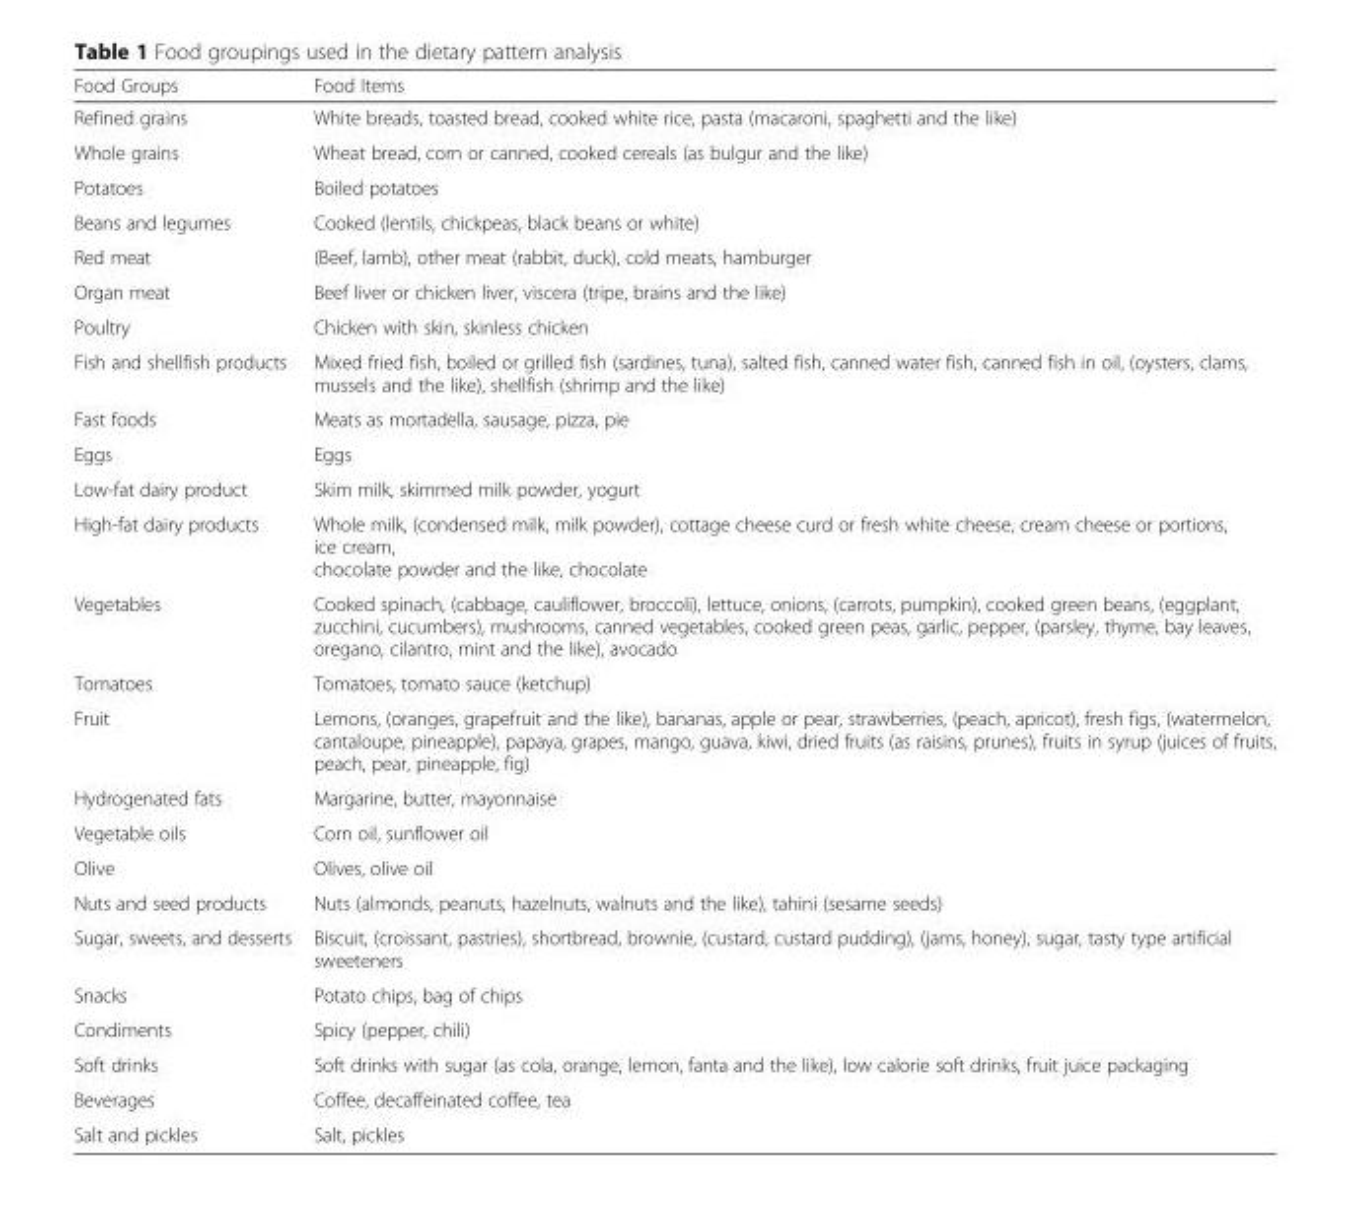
<table><thead><tr><td>Food Groups</td><td>Food Items</td></tr></thead><tbody><tr><td>Refined grains</td><td>White breads, toasted bread, cooked white rice, pasta (macaroni, spaghetti and the like)</td></tr><tr><td>Whole grains</td><td>Wheat bread, corn or canned, cooked cereals (as bulgur and the like)</td></tr><tr><td>Potatoes</td><td>Boiled potatoes</td></tr><tr><td>Beans and legumes</td><td>Cooked (lentils, chickpeas, black beans or white)</td></tr><tr><td>Red meat</td><td>(Beef, lamb), other meat (rabbit, duck), cold meats, hamburger</td></tr><tr><td>Organ meat</td><td>Beef liver or chicken liver, viscera (tripe, brains and the like)</td></tr><tr><td>Poultry</td><td>Chicken with skin, skinless chicken</td></tr><tr><td>Fish and shellfish products</td><td>Mixed fried fish, boiled or grilled fish (sardines, tuna), salted fish, canned water fish, canned fish in oil, (oysters, clams, mussels and the like), shellfish (shrimp and the like)</td></tr><tr><td>Fast foods</td><td>Meats as mortadella, sausage, pizza, pie</td></tr><tr><td>Eggs</td><td>Eggs</td></tr><tr><td>Low-fat dairy product</td><td>Skim milk, skimmed milk powder, yogurt</td></tr><tr><td>High-fat dairy products</td><td>Whole milk, (condensed milk, milk powder), cottage cheese curd or fresh white cheese, cream cheese or portions, ice cream, chocolate powder and the like, chocolate</td></tr><tr><td>Vegetables</td><td>Cooked spinach, (cabbage, cauliflower, broccoli), lettuce, onions, (carrots, pumpkin), cooked green beans, (eggplant, zucchini, cucumbers), mushrooms, canned vegetables, cooked green peas, garlic, pepper, (parsley, thyme, bay leaves, oregano, cilantro, mint and the like), avocado</td></tr><tr><td>Tomatoes</td><td>Tomatoes, tomato sauce (ketchup)</td></tr><tr><td>Fruit</td><td>Lemons, (oranges, grapefruit and the like), bananas, apple or pear, strawberries, (peach, apricot), fresh figs, (watermelon, cantaloupe, pineapple), papaya, grapes, mango, guava, kiwi, dried fruits (as raisins, prunes), fruits in syrup (juices of fruits, peach, pear, pineapple, fig)</td></tr><tr><td>Hydrogenated fats</td><td>Margarine, butter, mayonnaise</td></tr><tr><td>Vegetable oils</td><td>Corn oil, sunflower oil</td></tr><tr><td>Olive</td><td>Olives, olive oil</td></tr><tr><td>Nuts and seed products</td><td>Nuts (almonds, peanuts, hazelnuts, walnuts and the like), tahini (sesame seeds)</td></tr><tr><td>Sugar, sweets, and desserts</td><td>Biscuit, (croissant, pastries), shortbread, brownie, (custard, custard pudding), (jams, honey), sugar, tasty type artificial sweeteners</td></tr><tr><td>Snacks</td><td>Potato chips, bag of chips</td></tr><tr><td>Condiments</td><td>Spicy (pepper, chili)</td></tr><tr><td>Soft drinks</td><td>Soft drinks with sugar (as cola, orange, lemon, fanta and the like), low calorie soft drinks, fruit juice packaging</td></tr><tr><td>Beverages</td><td>Coffee, decaffeinated coffee, tea</td></tr><tr><td>Salt and pickles</td><td>Salt, pickles</td></tr></tbody></table>